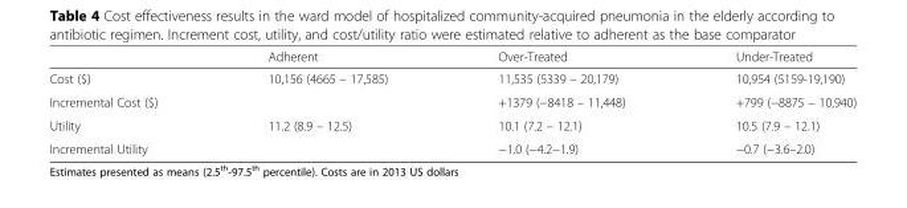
<table><thead><tr><td></td><td>Adherent</td><td>Over-Treated</td><td>Under-Treated</td></tr></thead><tbody><tr><td>Cost ($)</td><td>10,156 (4665 – 17,585)</td><td>11,535 (5339 – 20,179)</td><td>10,954 (5159-19,190)</td></tr><tr><td>Incremental Cost ($)</td><td></td><td>+1379 (−8418 – 11,448)</td><td>+799 (−8875 – 10,940)</td></tr><tr><td>Utility</td><td>11.2 (8.9 – 12.5)</td><td>10.1 (7.2 – 12.1)</td><td>10.5 (7.9 – 12.1)</td></tr><tr><td>Incremental Utility</td><td></td><td>−1.0 (−4.2−1.9)</td><td>−0.7 (−3.6–2.0)</td></tr></tbody></table>